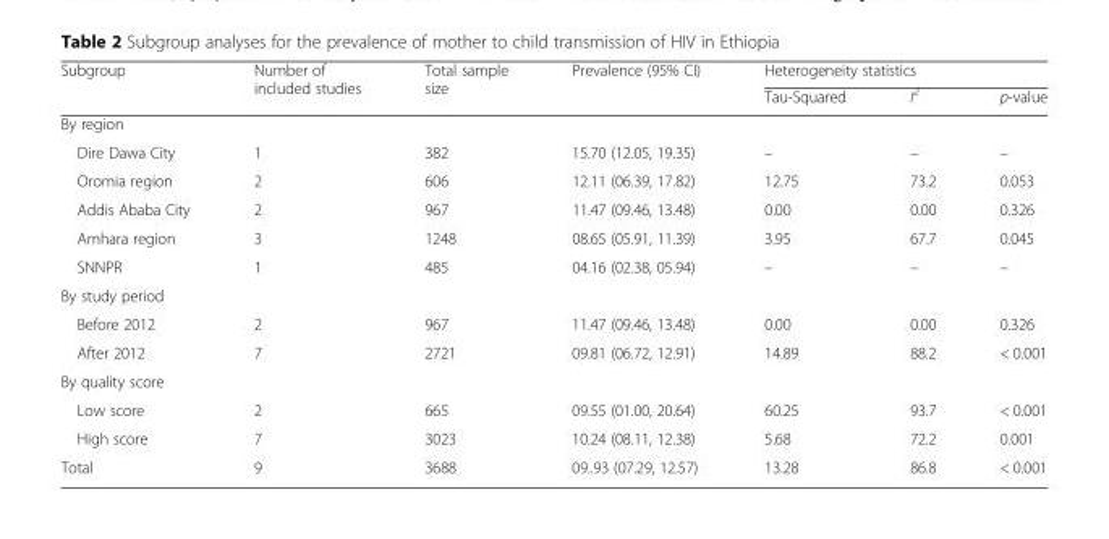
<table><thead><tr><td rowspan="2">Subgroup</td><td rowspan="2">Number of included studies</td><td rowspan="2">Total sample size</td><td rowspan="2">Prevalence (95% CI)</td><td colspan="3">Heterogeneity statistics</td></tr><tr><td>Tau-Squared</td><td>I<sup>2</sup></td><td>p-value</td></tr></thead><tbody><tr><td colspan="7">By region</td></tr><tr><td>Dire Dawa City</td><td>1</td><td>382</td><td>15.70 (12.05, 19.35)</td><td>–</td><td>–</td><td>–</td></tr><tr><td>Oromia region</td><td>2</td><td>606</td><td>12.11 (06.39, 17.82)</td><td>12.75</td><td>73.2</td><td>0.053</td></tr><tr><td>Addis Ababa City</td><td>2</td><td>967</td><td>11.47 (09.46, 13.48)</td><td>0.00</td><td>0.00</td><td>0.326</td></tr><tr><td>Amhara region</td><td>3</td><td>1248</td><td>08.65 (05.91, 11.39)</td><td>3.95</td><td>67.7</td><td>0.045</td></tr><tr><td>SNNPR</td><td>1</td><td>485</td><td>04.16 (02.38, 05.94)</td><td>–</td><td>–</td><td>–</td></tr><tr><td colspan="7">By study period</td></tr><tr><td>Before 2012</td><td>2</td><td>967</td><td>11.47 (09.46, 13.48)</td><td>0.00</td><td>0.00</td><td>0.326</td></tr><tr><td>After 2012</td><td>7</td><td>2721</td><td>09.81 (06.72, 12.91)</td><td>14.89</td><td>88.2</td><td>&lt; 0.001</td></tr><tr><td colspan="7">By quality score</td></tr><tr><td>Low score</td><td>2</td><td>665</td><td>09.55 (01.00, 20.64)</td><td>60.25</td><td>93.7</td><td>&lt; 0.001</td></tr><tr><td>High score</td><td>7</td><td>3023</td><td>10.24 (08.11, 12.38)</td><td>5.68</td><td>72.2</td><td>0.001</td></tr><tr><td>Total</td><td>9</td><td>3688</td><td>09..93 (07.29, 12.57)</td><td>13.28</td><td>86.8</td><td>&lt; 0.001</td></tr></tbody></table>